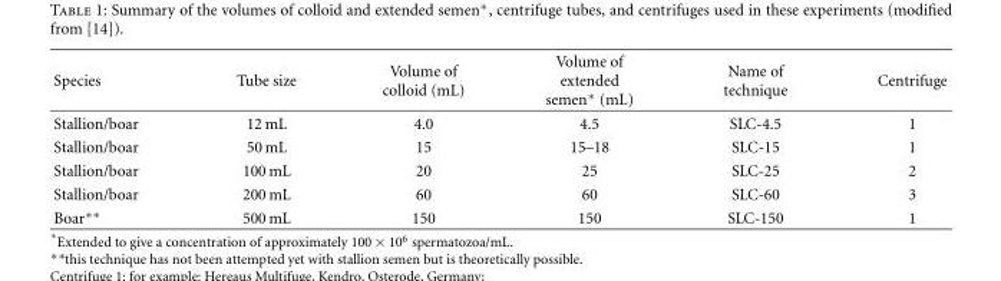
<table><thead><tr><td>Species</td><td>Tube size</td><td>Volume of colloid (mL)</td><td>Volume of extended semen∗ (mL)</td><td>Name of technique</td><td>Centrifuge</td></tr></thead><tbody><tr><td>Stallion/boar</td><td>12 mL</td><td>4.0</td><td>4.5</td><td>SLC-4.5</td><td>1</td></tr><tr><td>Stallion/boar</td><td>50 mL</td><td>15</td><td>15–18</td><td>SLC-15</td><td>1</td></tr><tr><td>Stallion/boar</td><td>100 mL</td><td>20</td><td>25</td><td>SLC-25</td><td>2</td></tr><tr><td>Stallion/boar</td><td>200 mL</td><td>60</td><td>60</td><td>SLC-60</td><td>3</td></tr><tr><td>Boar∗∗</td><td>500 mL</td><td>150</td><td>150</td><td>SLC-150</td><td>1</td></tr></tbody></table>